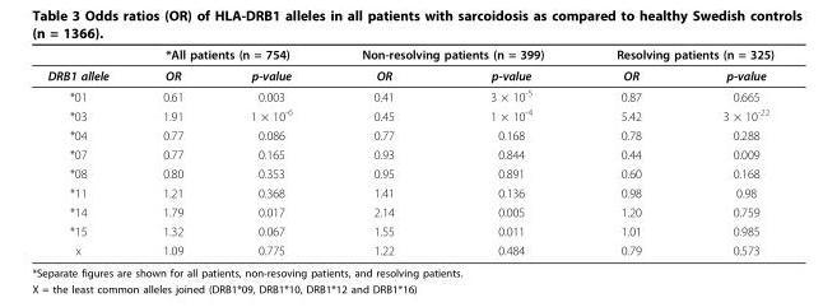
<table><thead><tr><td rowspan="2">DRB1 allele</td><td colspan="2">*All patients (n = 754)</td><td colspan="2">Non-resolving patients (n = 399)</td><td colspan="2">Resolving patients (n = 325)</td></tr><tr><td>OR</td><td>p-value</td><td>OR</td><td>p-value</td><td>OR</td><td>p-value</td></tr></thead><tbody><tr><td>*01</td><td>0.61</td><td>0.003</td><td>0.41</td><td>3 × 10<sup>-5</sup></td><td>0.87</td><td>0.665</td></tr><tr><td>*03</td><td>1.91</td><td>1 × 10<sup>-6</sup></td><td>0.45</td><td>1 × 10<sup>-4</sup></td><td>5.42</td><td>3 × 10<sup>-22</sup></td></tr><tr><td>*04</td><td>0.77</td><td>0.086</td><td>0.77</td><td>0.168</td><td>0.78</td><td>0.288</td></tr><tr><td>*07</td><td>0.77</td><td>0.165</td><td>0.93</td><td>0.844</td><td>0.44</td><td>0.009</td></tr><tr><td>*08</td><td>0.80</td><td>0.353</td><td>0.95</td><td>0.891</td><td>0.60</td><td>0.168</td></tr><tr><td>*11</td><td>1.21</td><td>0.368</td><td>1.41</td><td>0.136</td><td>0.98</td><td>0.98</td></tr><tr><td>*14</td><td>1.79</td><td>0.017</td><td>2.14</td><td>0.005</td><td>1.20</td><td>0.759</td></tr><tr><td>*15</td><td>1.32</td><td>0.067</td><td>1.55</td><td>0.011</td><td>1.01</td><td>0.985</td></tr><tr><td>x</td><td>1.09</td><td>0.775</td><td>1.22</td><td>0.484</td><td>0.79</td><td>0.573</td></tr></tbody></table>